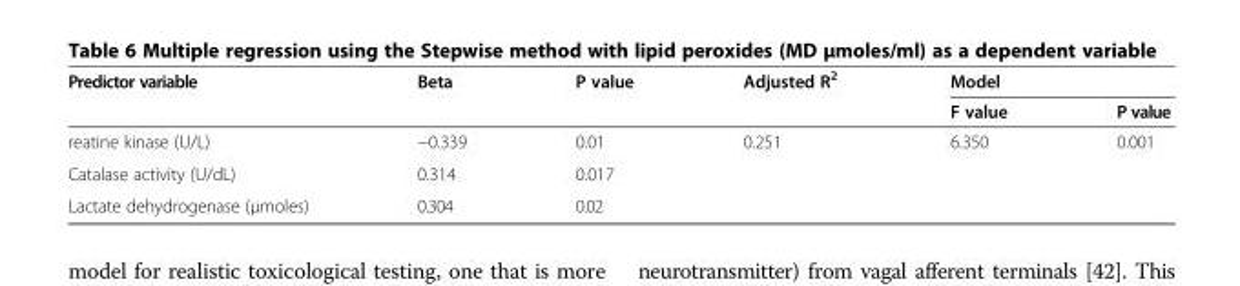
<table><thead><tr><td rowspan="2">Predictor variable</td><td rowspan="2">Beta</td><td rowspan="2">P value</td><td rowspan="2">Adjusted R<sup>2</sup></td><td colspan="2">Model</td></tr><tr><td>F value</td><td>P value</td></tr></thead><tbody><tr><td>reatine kinase (U/L)</td><td>−0.339</td><td>0.01</td><td rowspan="3">0.251</td><td rowspan="3">6.350</td><td rowspan="3">0.001</td></tr><tr><td>Catalase activity (U/dL)</td><td>0.314</td><td>0.017</td></tr><tr><td>Lactate dehydrogenase (μmoles)</td><td>0.304</td><td>0.02</td></tr></tbody></table>